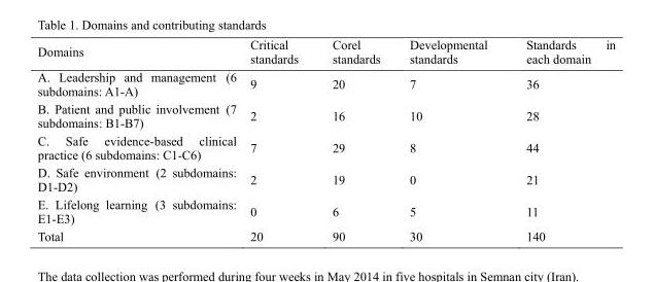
<table><thead><tr><td>Domains</td><td>Critical standards</td><td>Corel standards</td><td>Developmental standards</td><td>Standards in each domain</td></tr></thead><tbody><tr><td>A. Leadership and management (6 subdomains: A1-A)</td><td>9</td><td>20</td><td>7</td><td>36</td></tr><tr><td>B. Patient and public involvement (7 subdomains: B1-B7)</td><td>2</td><td>16</td><td>10</td><td>28</td></tr><tr><td>C. Safe evidence-based clinical practice (6 subdomains: C1-C6)</td><td>7</td><td>29</td><td>8</td><td>44</td></tr><tr><td>D. Safe environment (2 subdomains: D1-D2)</td><td>2</td><td>19</td><td>0</td><td>21</td></tr><tr><td>E. Lifelong learning (3 subdomains: E1-E3)</td><td>0</td><td>6</td><td>5</td><td>11</td></tr><tr><td>Total</td><td>20</td><td>90</td><td>30</td><td>140</td></tr></tbody></table>